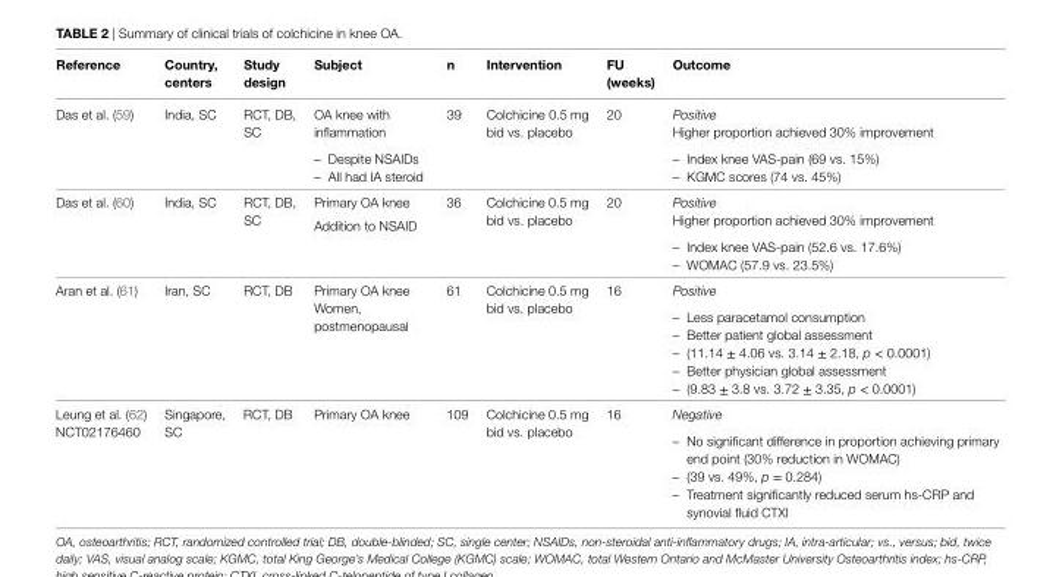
<table><thead><tr><td>Reference</td><td>Country, centers</td><td>Study design</td><td>Subject</td><td>n</td><td>intervention</td><td>FU (weeks)</td><td>Outcome</td></tr></thead><tbody><tr><td>Das et al. (59)</td><td>India, SC</td><td>RCT, DB, SC</td><td>OA knee with inflammation – Despite NSAIDs – All had IA steroid</td><td>39</td><td>Colchicine 0.5 mg bid vs. placebo</td><td>20</td><td>Positive Higher proportion achieved 30% improvement – Index knee VAS-pain (69 vs. 15%) – KGMC scores (74 vs. 45%)</td></tr><tr><td>Das et al. (60)</td><td>India, SC</td><td>RCT, DB, SC</td><td>Primary OA knee Addition to NSAID</td><td>36</td><td>Colchicine 0.5 mg bid vs. placebo</td><td>20</td><td>Positive Higher proportion achieved 30% improvement – Index knee VAS-pain (52.6 vs. 17.6%) – WOMAC (57.9 vs. 23.5%)</td></tr><tr><td>Aran et al. (61)</td><td>Iran, SC</td><td>RCT, DB</td><td>Primary OA knee Women, postmenopausal</td><td>61</td><td>Colchicine 0.5 mg bid vs. placebo</td><td>16</td><td>Positive – Less paracetamol consumption – Better patient global assessment – (11.14 ± 4.06 vs. 3.14 ± 2.18, p &lt; 0.0001) – Better physician global assessment – (9.83 ± 3.8 vs. 3.72 ± 3.35, p &lt; 0.0001)</td></tr><tr><td>Leung et al. (62) NCT02176460</td><td>Singapore, SC</td><td>RCT, DB</td><td>Primary OA knee</td><td>109</td><td>Colchicine 0.5 mg bid vs. placebo</td><td>16</td><td>Negative – No significant difference in proportion achieving primary end point (30% reduction in WOMAC) – (39 vs. 49%, p = 0.284) – Treatment significantly reduced serum hs-CRP and synovial fluid CTXI</td></tr></tbody></table>